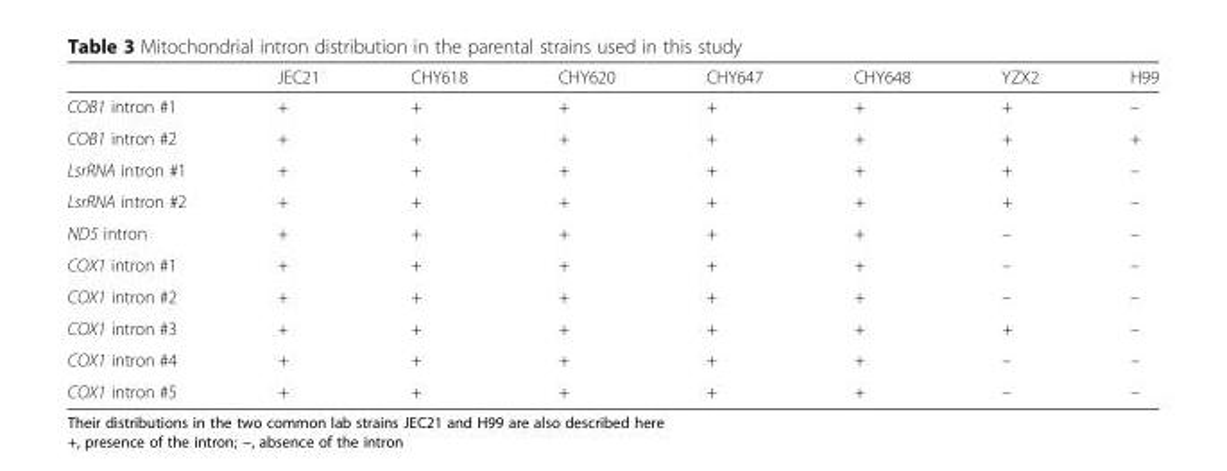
<table><thead><tr><td></td><td>JEC21</td><td>CHY618</td><td>CHY620</td><td>CHY647</td><td>CHY648</td><td>YZX2</td><td>H99</td></tr></thead><tbody><tr><td>COB1 intron #1</td><td>+</td><td>+</td><td>+</td><td>+</td><td>+</td><td>+</td><td>–</td></tr><tr><td>COB1 intron #2</td><td>+</td><td>+</td><td>+</td><td>+</td><td>+</td><td>+</td><td>+</td></tr><tr><td>LsrRNA intron #1</td><td>+</td><td>+</td><td>+</td><td>+</td><td>+</td><td>+</td><td>–</td></tr><tr><td>LsrRNA intron #2</td><td>+</td><td>+</td><td>+</td><td>+</td><td>+</td><td>+</td><td>–</td></tr><tr><td>ND5 intron</td><td>+</td><td>+</td><td>+</td><td>+</td><td>+</td><td>–</td><td>–</td></tr><tr><td>COX1 intron #1</td><td>+</td><td>+</td><td>+</td><td>+</td><td>+</td><td>–</td><td>–</td></tr><tr><td>COX1 intron #2</td><td>+</td><td>+</td><td>+</td><td>+</td><td>+</td><td>–</td><td>–</td></tr><tr><td>COX1 intron #3</td><td>+</td><td>+</td><td>+</td><td>+</td><td>+</td><td>+</td><td>–</td></tr><tr><td>COX1 intron #4</td><td>+</td><td>+</td><td>+</td><td>+</td><td>+</td><td>–</td><td>–</td></tr><tr><td>COX1 intron #5</td><td>+</td><td>+</td><td>+</td><td>+</td><td>+</td><td>–</td><td>–</td></tr></tbody></table>